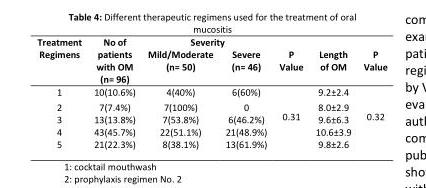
<table><thead><tr><td rowspan="2">Treatment Regimens</td><td rowspan="2">No of patients with OM (n= 96)</td><td colspan="2">Severity</td><td rowspan="2">P Value</td><td rowspan="2">Length of OM</td><td rowspan="2">P Value</td></tr><tr><td>Mild/Moderate (n= 50)</td><td>Severe (n= 46)</td></tr></thead><tbody><tr><td>1</td><td>10(10.6%)</td><td>4(40%)</td><td>6(60%)</td><td rowspan="5">0.31</td><td>9.2±2.4</td><td rowspan="5">0.32</td></tr><tr><td>2</td><td>7(7.4%)</td><td>7(100%)</td><td>0</td><td>8.0±2.9</td></tr><tr><td>3</td><td>13(13.8%)</td><td>7(53.8%)</td><td>6(46.2%)</td><td>9.6±6.3</td></tr><tr><td>4</td><td>43(45.7%)</td><td>22(51.1%)</td><td>21(48.9%)</td><td>10.6±3.9</td></tr><tr><td>5</td><td>21(22.3%)</td><td>8(38.1%)</td><td>13(61.9%)</td><td>9.8±2.6</td></tr></tbody></table>